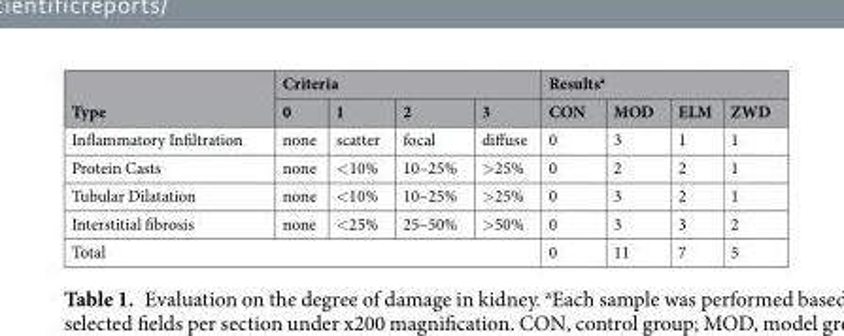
<table><thead><tr><td rowspan="2">Type</td><td colspan="4">Criteria</td><td colspan="4">Results<sup>a</sup></td></tr><tr><td>0</td><td>1</td><td>2</td><td>3</td><td>CON</td><td>MOD</td><td>ELM</td><td>ZWD</td></tr></thead><tbody><tr><td>Inflammatory Infiltration</td><td>none</td><td>scatter</td><td>focal</td><td>diffuse</td><td>0</td><td>3</td><td>1</td><td>1</td></tr><tr><td>Protein Casts</td><td>none</td><td>&lt;10%</td><td>10–25%</td><td>&gt;25%</td><td>0</td><td>2</td><td>2</td><td>1</td></tr><tr><td>Tubular Dilatation</td><td>none</td><td>&lt;10%</td><td>10–25%</td><td>&gt;25%</td><td>0</td><td>3</td><td>2</td><td>1</td></tr><tr><td>Interstitial fibrosis</td><td>none</td><td>&lt;25%</td><td>25–50%</td><td>&gt;50%</td><td>0</td><td>3</td><td>3</td><td>2</td></tr><tr><td colspan="5">Total</td><td>0</td><td>11</td><td>7</td><td>5</td></tr></tbody></table>